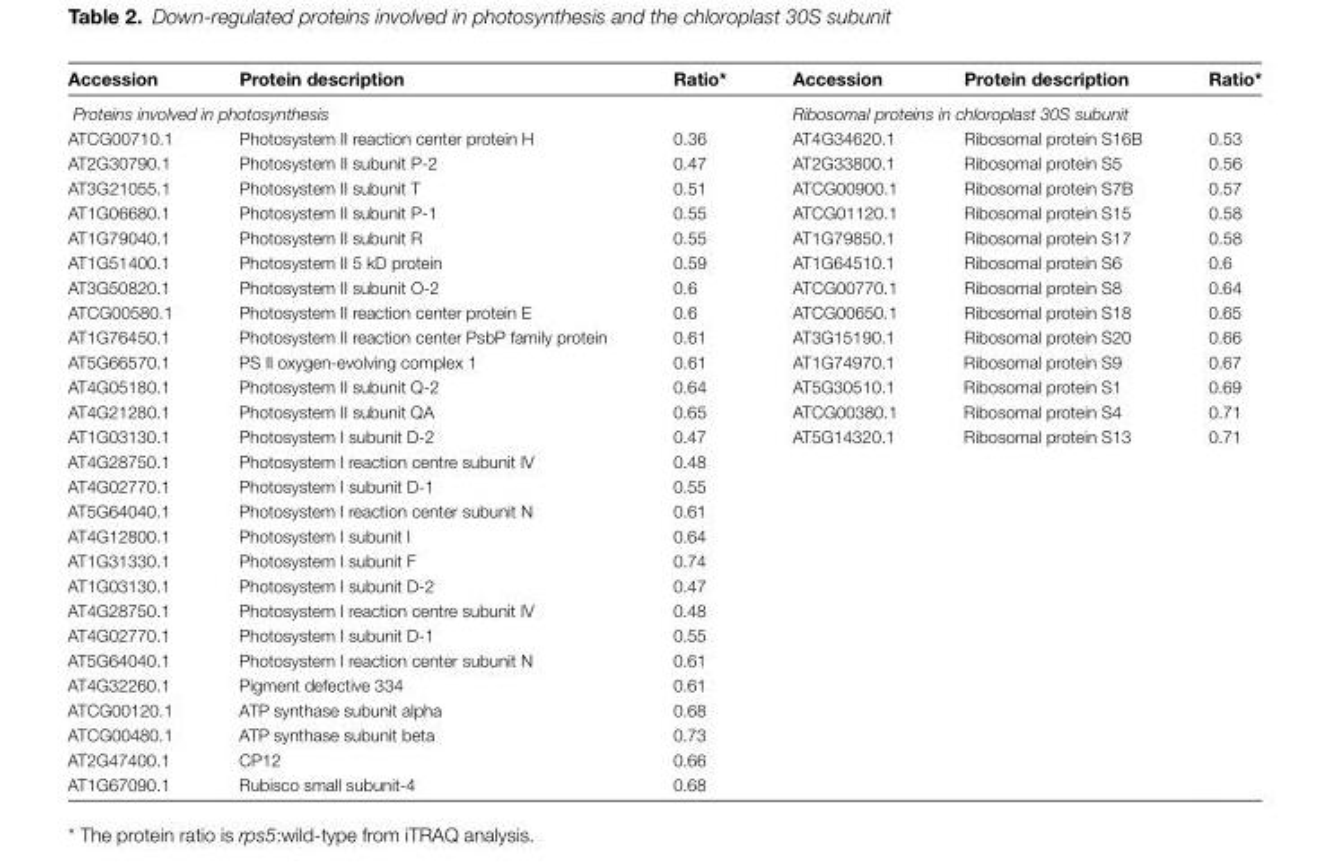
<table><thead><tr><td>Accession</td><td>Protein description</td><td>Ratio*</td><td>Accession</td><td>Protein description</td><td>Ratio*</td></tr></thead><tbody><tr><td colspan="3">Proteins involved in photosynthesis</td><td colspan="3">Ribosomal proteins in chloroplast 30S subunit</td></tr><tr><td>ATCG00710.1</td><td>Photosystem II reaction center protein H</td><td>0.36</td><td>AT4G34620.1</td><td>Ribosomal protein S16B</td><td>0.53</td></tr><tr><td>AT2G30790.1</td><td>Photosystem II subunit P-2</td><td>0.47</td><td>AT2G33800.1</td><td>Ribosomal protein S5</td><td>0.56</td></tr><tr><td>AT3G21055.1</td><td>Photosystem II subunit T</td><td>0.51</td><td>ATCG00900.1</td><td>Ribosomal protein S7B</td><td>0.57</td></tr><tr><td>AT1G06680.1</td><td>Photosystem II subunit P-1</td><td>0.55</td><td>ATCG01120.1</td><td>Ribosomal protein S15</td><td>0.58</td></tr><tr><td>AT1G79040.1</td><td>Photosystem II subunit R</td><td>0.55</td><td>AT1G79850.1</td><td>Ribosomal protein S17</td><td>0.58</td></tr><tr><td>AT1G51400.1</td><td>Photosystem II 5 kD protein</td><td>0.59</td><td>AT1G64510.1</td><td>Ribosomal protein S6</td><td>0.6</td></tr><tr><td>AT3G50820.1</td><td>Photosystem II subunit O-2</td><td>0.6</td><td>ATCG00770.1</td><td>Ribosomal protein S8</td><td>0.64</td></tr><tr><td>ATCG00580.1</td><td>Photosystem II reaction center protein E</td><td>0.6</td><td>ATCG00650.1</td><td>Ribosomal protein S18</td><td>0.65</td></tr><tr><td>AT1G76450.1</td><td>Photosystem II reaction center PsbP family protein</td><td>0.61</td><td>AT3G15190.1</td><td>Ribosomal protein S20</td><td>0.66</td></tr><tr><td>AT5G66570.1</td><td>PS II oxygen-evolving complex 1</td><td>0.61</td><td>AT1G74970.1</td><td>Ribosomal protein S9</td><td>0.67</td></tr><tr><td>AT4G05180.1</td><td>Photosystem II subunit Q-2</td><td>0.64</td><td>AT5G30510.1</td><td>Ribosomal protein S1</td><td>0.69</td></tr><tr><td>AT4G21280.1</td><td>Photosystem II subunit QA</td><td>0.65</td><td>ATCG00380.1</td><td>Ribosomal protein S4</td><td>0.71</td></tr><tr><td>AT1G03130.1</td><td>Photosystem I subunit D-2</td><td>0.47</td><td>AT5G14320.1</td><td>Ribosomal protein S13</td><td>0.71</td></tr><tr><td>AT4G28750.1</td><td>Photosystem I reaction centre subunit IV</td><td>0.48</td><td></td><td></td><td></td></tr><tr><td>AT4G02770.1</td><td>Photosystem I subunit D-1</td><td>0.55</td><td></td><td></td><td></td></tr><tr><td>AT5G64040.1</td><td>Photosystem I reaction center subunit N</td><td>0.61</td><td></td><td></td><td></td></tr><tr><td>AT4G12800.1</td><td>Photosystem I subunit l</td><td>0.64</td><td></td><td></td><td></td></tr><tr><td>AT1G31330.1</td><td>Photosystem I subunit F</td><td>0.74</td><td></td><td></td><td></td></tr><tr><td>AT1G03130.1</td><td>Photosystem I subunit D-2</td><td>0.47</td><td></td><td></td><td></td></tr><tr><td>AT4G28750.1</td><td>Photosystem I reaction centre subunit IV</td><td>0.48</td><td></td><td></td><td></td></tr><tr><td>AT4G02770.1</td><td>Photosystem I subunit D-1</td><td>0.55</td><td></td><td></td><td></td></tr><tr><td>AT5G64040.1</td><td>Photosystem I reaction center subunit N</td><td>0.61</td><td></td><td></td><td></td></tr><tr><td>AT4G32260.1</td><td>Pigment defective 334</td><td>0.61</td><td></td><td></td><td></td></tr><tr><td>ATCG00120.1</td><td>ATP synthase subunit alpha</td><td>0.68</td><td></td><td></td><td></td></tr><tr><td>ATCG00480.1</td><td>ATP synthase subunit beta</td><td>0.73</td><td></td><td></td><td></td></tr><tr><td>AT2G47400.1</td><td>CP12</td><td>0.66</td><td></td><td></td><td></td></tr><tr><td>AT1G67090.1</td><td>Rubisco small subunit-4</td><td>0.68</td><td></td><td></td><td></td></tr></tbody></table>